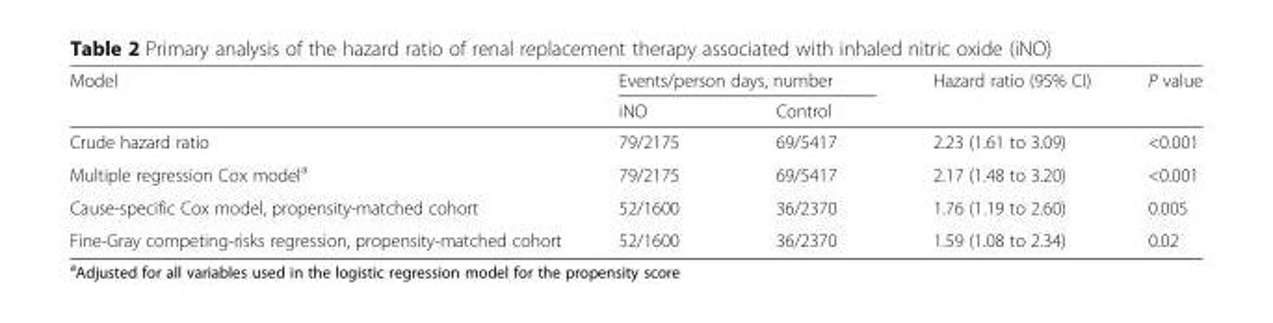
<table><thead><tr><td rowspan="2">Model</td><td colspan="2">Events/person days, number</td><td rowspan="2">Hazard ratio (95% CI)</td><td rowspan="2">P value</td></tr><tr><td>iNO</td><td>Control</td></tr></thead><tbody><tr><td>Crude hazard ratio</td><td>79/2175</td><td>69/5417</td><td>2.23 (1.61 to 3.09)</td><td>&lt;0.001</td></tr><tr><td>Multiple regression Cox model<sup>a</sup></td><td>79/2175</td><td>69/5417</td><td>2.17 (1.48 to 3.20)</td><td>&lt;0.001</td></tr><tr><td>Cause-specific Cox model, propensity-matched cohort</td><td>52/1600</td><td>36/2370</td><td>1.76 (1.19 to 2.60)</td><td>0.005</td></tr><tr><td>Fine-Gray competing-risks regression, propensity-matched cohort</td><td>52/1600</td><td>36/2370</td><td>1.59 (1.08 to 2.34)</td><td>0.02</td></tr></tbody></table>